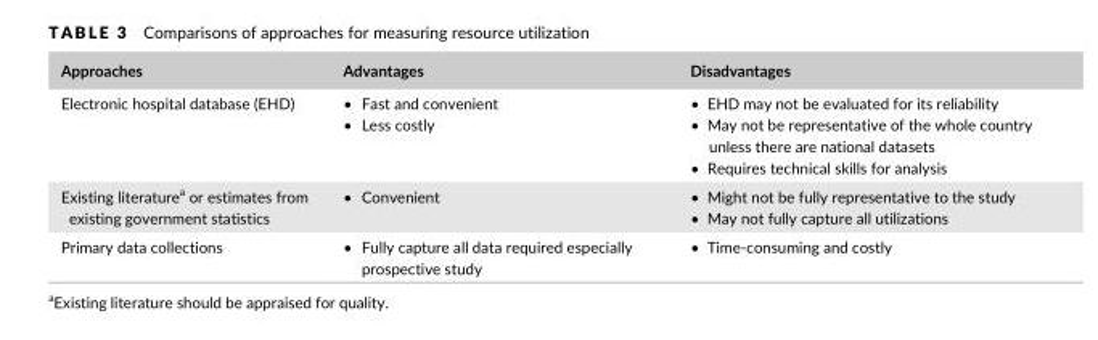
<table><thead><tr><td>Approaches</td><td>Advantages</td><td>Disadvantages</td></tr></thead><tbody><tr><td>Electronic hospital database (EHD)</td><td>• Fast and convenient • Less costly</td><td>• EHD may not be evaluated for its reliability • May not be representative of the whole country unless there are national datasets • Requires technical skills for analysis</td></tr><tr><td>Existing literature<sup>a</sup> or estimates from existing government statistics</td><td>• Convenient</td><td>• Might not be fully representative to the study • May not fully capture all utilizations</td></tr><tr><td>Primary data collections</td><td>• Fully capture all data required especially prospective study</td><td>• Time-consuming and costly</td></tr></tbody></table>